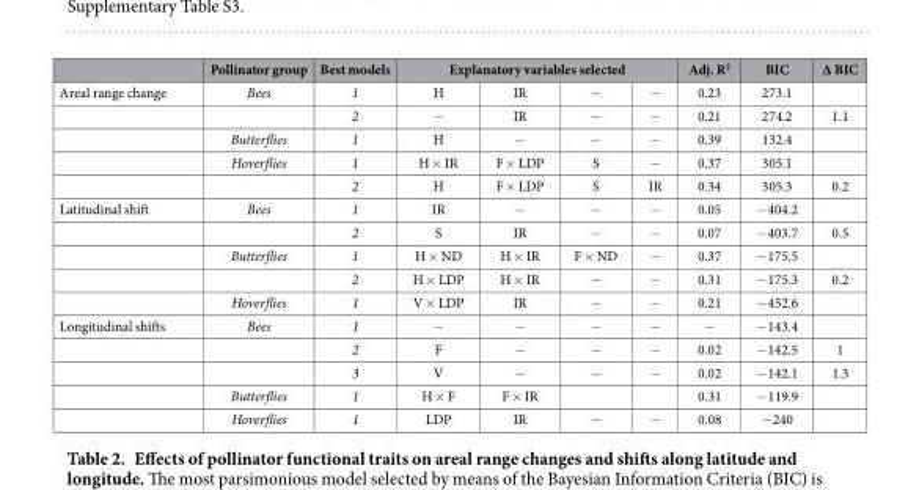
<table><thead><tr><td rowspan="2">Areal range change</td><td rowspan="2">Pollinator group Bees</td><td rowspan="2">Best models 1</td><td colspan="4">Explanatory variables selected</td><td rowspan="2">Adj. R<sup>2</sup> 0.23</td><td rowspan="2">BIC 273.1</td><td rowspan="2">Δ BIC</td></tr><tr><td>H</td><td>IR</td><td>−</td><td>−</td></tr></thead><tbody><tr><td></td><td></td><td>2</td><td>−</td><td>IR</td><td>−</td><td>−</td><td>0.21</td><td>274.2</td><td>1.1</td></tr><tr><td></td><td>Butterflies</td><td>1</td><td>H</td><td>−</td><td>−</td><td>−</td><td>0.39</td><td>132.4</td><td></td></tr><tr><td></td><td>Hoverflies</td><td>1</td><td>H × IR</td><td>F × LDP</td><td>S</td><td>−</td><td>0.37</td><td>305.1</td><td></td></tr><tr><td></td><td></td><td>2</td><td>H</td><td>F × LDP</td><td>S</td><td>IR</td><td>0.34</td><td>305.3</td><td>0.2</td></tr><tr><td rowspan="5">Latitudinal shift</td><td>Bees</td><td>1</td><td>IR</td><td>−</td><td>−</td><td>−</td><td>0.05</td><td>− 404.2</td><td></td></tr><tr><td></td><td>2</td><td>S</td><td>IR</td><td>−</td><td>−</td><td>0.07</td><td>− 403.7</td><td>0.5</td></tr><tr><td>Butterflies</td><td>1</td><td>H × ND</td><td>H × IR</td><td>F × ND</td><td>−</td><td>0.37</td><td>− 175.5</td><td></td></tr><tr><td></td><td>2</td><td>H × LDP</td><td>H × IR</td><td>−</td><td>−</td><td>0.31</td><td>− 175.3</td><td>0.2</td></tr><tr><td>Hoverflies</td><td>1</td><td>V × LDP</td><td>IR</td><td>−</td><td>−</td><td>0.21</td><td>− 452.6</td><td></td></tr><tr><td rowspan="5">Longitudinal shifts</td><td>Bees</td><td>1</td><td>−</td><td>−</td><td>−</td><td>−</td><td>−</td><td>− 143.4</td><td></td></tr><tr><td></td><td>2</td><td>F</td><td>−</td><td>−</td><td>−</td><td>0.02</td><td>− 142.5</td><td>1</td></tr><tr><td></td><td>3</td><td>V</td><td>−</td><td>−</td><td>−</td><td>0.02</td><td>− 142.1</td><td>1.3</td></tr><tr><td>Butterflies</td><td>1</td><td>H × F</td><td>F × IR</td><td></td><td></td><td>0.31</td><td>− 119.9</td><td></td></tr><tr><td>Hoverflies</td><td>1</td><td>LDP</td><td>IR</td><td>−</td><td>−</td><td>0.08</td><td>− 240</td><td></td></tr></tbody></table>